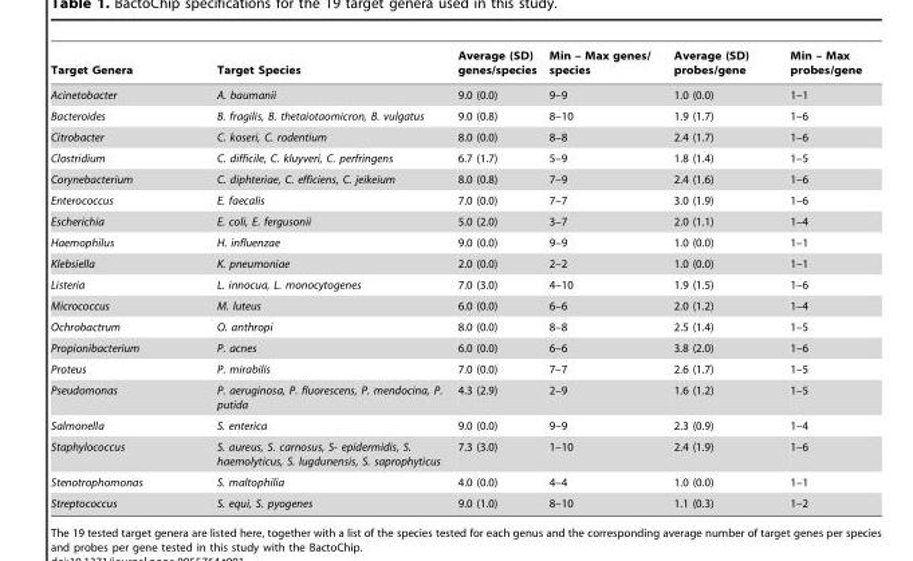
<table><thead><tr><td>Target Genera</td><td>Target Species</td><td>Average (SD) genes/species</td><td>Min – Max genes/ species</td><td>Average (SD) probes/gene</td><td>Min – Max probes/gene</td></tr></thead><tbody><tr><td>Acinetobacter</td><td>A. baumanii</td><td>9.0 (0.0)</td><td>9–9</td><td>1.0 (0.0)</td><td>1–1</td></tr><tr><td>Bacteroides</td><td>B. fragilis, B. thetaiotaomicron, B. vulgatus</td><td>9.0 (0.8)</td><td>8–10</td><td>1.9 (1.7)</td><td>1–6</td></tr><tr><td>Citrobacter</td><td>C. koseri, C. rodentium</td><td>8.0 (0.0)</td><td>8–8</td><td>2.4 (1.7)</td><td>1–6</td></tr><tr><td>Clostridium</td><td>C. difficile, C. kluyveri, C. perfringens</td><td>6.7 (1.7)</td><td>5–9</td><td>1.8 (1.4)</td><td>1–5</td></tr><tr><td>Corynebacterium</td><td>C. diphteriae, C. efficiens, C. jeikeium</td><td>8.0 (0.8)</td><td>7–9</td><td>2.4 (1.6)</td><td>1–6</td></tr><tr><td>Enterococcus</td><td>E. faecalis</td><td>7.0 (0.0)</td><td>7–7</td><td>3.0 (1.9)</td><td>1–6</td></tr><tr><td>Escherichia</td><td>E. coli, E. fergusonii</td><td>5.0 (2.0)</td><td>3–7</td><td>2.0 (1.1)</td><td>1–4</td></tr><tr><td>Haemophilus</td><td>H. influenzae</td><td>9.0 (0.0)</td><td>9–9</td><td>1.0 (0.0)</td><td>1–1</td></tr><tr><td>Klebsiella</td><td>K. pneumoniae</td><td>2.0 (0.0)</td><td>2–2</td><td>1.0 (0.0)</td><td>1–1</td></tr><tr><td>Listeria</td><td>L. innocua, L. monocytogenes</td><td>7.0 (3.0)</td><td>4–10</td><td>1.9 (1.5)</td><td>1–6</td></tr><tr><td>Micrococcus</td><td>M. luteus</td><td>6.0 (0.0)</td><td>6–6</td><td>2.0 (1.2)</td><td>1–4</td></tr><tr><td>Ochrobactrum</td><td>O. anthropi</td><td>8.0 (0.0)</td><td>8–8</td><td>2.5 (1.4)</td><td>1–5</td></tr><tr><td>Propionibacterium</td><td>P. acnes</td><td>6.0 (0.0)</td><td>6–6</td><td>3.8 (2.0)</td><td>1–6</td></tr><tr><td>Proteus</td><td>P. mirabilis</td><td>7.0 (0.0)</td><td>7–7</td><td>2.6 (1.7)</td><td>1–5</td></tr><tr><td>Pseudomonas</td><td>P. aeruginosa, P. fluorescens, P. mendocina, P. putida</td><td>4.3 (2.9)</td><td>2–9</td><td>1.6 (1.2)</td><td>1–5</td></tr><tr><td>Salmonella</td><td>S. enterica</td><td>9.0 (0.0)</td><td>9–9</td><td>2.3 (0.9)</td><td>1–4</td></tr><tr><td>Staphylococcus</td><td>S. aureus, S. carnosus, S- epidermidis, S. haemolyticus, S. lugdunensis, S. saprophyticus</td><td>7.3 (3.0)</td><td>1–10</td><td>2.4 (1.9)</td><td>1–6</td></tr><tr><td>Stenotrophomonas</td><td>S. maltophilia</td><td>4.0 (0.0)</td><td>4–4</td><td>1.0 (0.0)</td><td>1–1</td></tr><tr><td>Streptococcus</td><td>S. equi, S. pyogenes</td><td>9.0 (1.0)</td><td>8–10</td><td>1.1 (0.3)</td><td>1–2</td></tr></tbody></table>